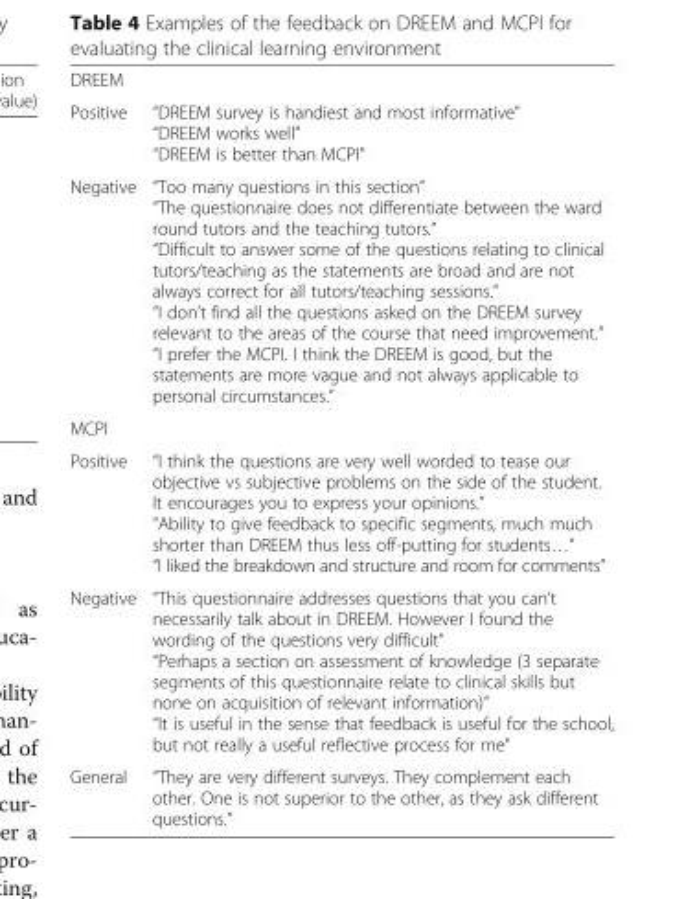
<table><tbody><tr><td colspan="2">DREEM</td></tr><tr><td>Positive</td><td>“DREEM survey is handiest and most informative” “DREEM works well” “DREEM is better than MCPI”</td></tr><tr><td>Negative</td><td>“Too many questions in this section” “The questionnaire does not differentiate between the ward round tutors and the teaching tutors.” “Difficult to answer some of the questions relating to clinical tutors/teaching as the statements are broad and are not always correct for all tutors/teaching sessions.” “I don’t find all the questions asked on the DREEM survey relevant to the areas of the course that need improvement.” “I prefer the MCPI. I think the DREEM is good, but the statements are more vague and not always applicable to personal circumstances.”</td></tr><tr><td colspan="2">MCPI</td></tr><tr><td>Positive</td><td>“I think the questions are very well worded to tease our objective vs subjective problems on the side of the student. It encourages you to express your opinions.” “Ability to give feedback to specific segments, much much shorter than DREEM thus less off-putting for students…” “I liked the breakdown and structure and room for comments”</td></tr><tr><td>Negative</td><td>“This questionnaire addresses questions that you can’t necessarily talk about in DREEM. However I found the wording of the questions very difficult” “Perhaps a section on assessment of knowledge (3 separate segments of this questionnaire relate to clinical skills but none on acquisition of relevant information)” “It is useful in the sense that feedback is useful for the school, but not really a useful reflective process for me”</td></tr><tr><td>General</td><td>“They are very different surveys. They complement each other. One is not superior to the other, as they ask different questions.”</td></tr></tbody></table>